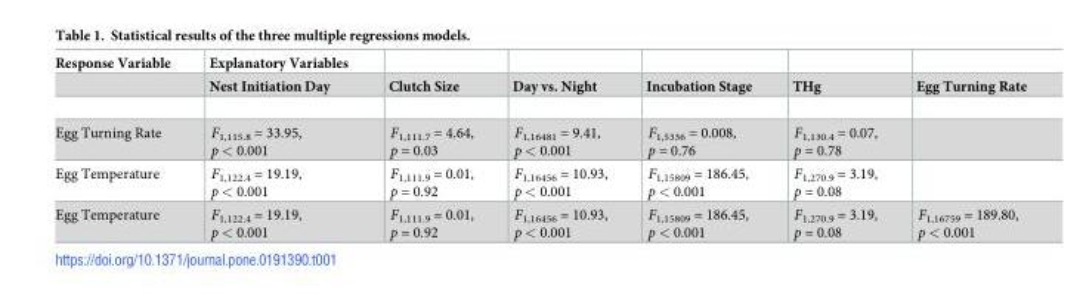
<table><thead><tr><td rowspan="2">Response Variable</td><td rowspan="2">Explanatory Variables Nest Initiation Day</td><td rowspan="2">Clutch Size</td><td rowspan="2">Day vs. Night</td><td rowspan="2">Incubation Stage</td><td rowspan="2">THg</td><td rowspan="2">Egg Turning Rate</td></tr><tr></tr></thead><tbody><tr><td>Egg Turning Rate</td><td>F<sub>1,115.8</sub> = 33.95, p &lt; 0.001</td><td>F<sub>1,111.7</sub> = 4.64, p = 0.03</td><td>F<sub>1,16481</sub> = 9.41, p &lt; 0.001</td><td>F<sub>1,5336</sub> = 0.008, p = 0.76</td><td>F<sub>1,130.4</sub> = 0.07, p = 0.78</td><td></td></tr><tr><td>Egg Temperature</td><td>F<sub>1,122.4</sub> = 19.19, p &lt; 0.001</td><td>F<sub>1,111.9</sub> = 0.01, p = 0.92</td><td>F<sub>1,16456</sub> = 10.93, p &lt; 0.001</td><td>F<sub>1,15809</sub> = 186.45, p &lt; 0.001</td><td>F<sub>1,270.9</sub> = 3.19, p = 0.08</td><td></td></tr><tr><td>Egg Temperature</td><td>F<sub>1,122.4</sub> = 19.19, p &lt; 0.001</td><td>F<sub>1,111.9</sub> = 0.01, p = 0.92</td><td>F<sub>1,16456</sub> = 10.93, p &lt; 0.001</td><td>F<sub>1,15809</sub> = 186.45, p &lt; 0.001</td><td>F<sub>1,270.9</sub> = 3.19, p = 0.08</td><td>F<sub>1,16759</sub> = 189.80, p &lt; 0.001</td></tr></tbody></table>